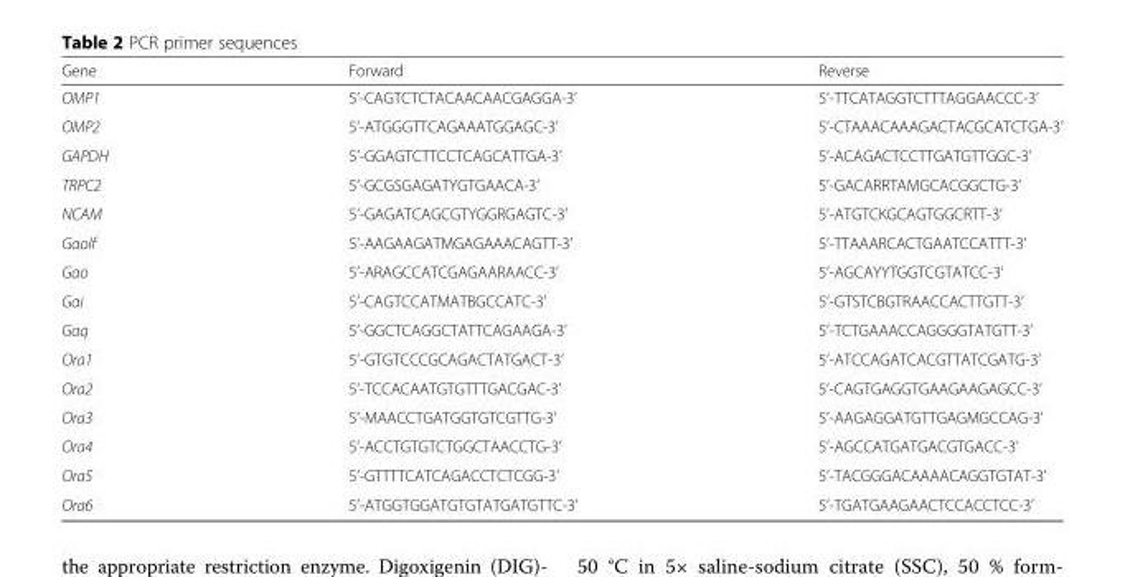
<table><thead><tr><td>Gene</td><td>Forward</td><td>Reverse</td></tr></thead><tbody><tr><td>OMP1</td><td>5’-CAGTCTCTACAACAACGAGGA-3’</td><td>5’-TTCATAGGTCTTTAGGAACCC-3’</td></tr><tr><td>OMP2</td><td>5’-ATGGGTTCAGAAATGGAGC-3’</td><td>5’-CTAAACAAAGACTACGCATCTGA-3’</td></tr><tr><td>GAPDH</td><td>5’-GGAGTCTTCCTCAGCATTGA-3’</td><td>5’-ACAGACTCCTTGATGTTGGC-3’</td></tr><tr><td>TRPC2</td><td>5’-GCGSGAGATYGTGAACA-3’</td><td>5’-GACARRTAMGCACGGCTG-3’</td></tr><tr><td>NCAM</td><td>5’-GAGATCAGCGTYGGRGAGTC-3’</td><td>5’-ATGTCKGCAGTGGCRTT-3’</td></tr><tr><td>Gαolf</td><td>5’-AAGAAGATMGAGAAACAGTT-3’</td><td>5’-TTAAARCACTGAATCCATTT-3’</td></tr><tr><td>Gαo</td><td>5’-ARAGCCATCGAGAARAACC-3’</td><td>5’-AGCAYYTGGTCGTATCC-3’</td></tr><tr><td>Gαi</td><td>5’-CAGTCCATMATBGCCATC-3’</td><td>5’-GTSTCBGTRAACCACTTGTT-3’</td></tr><tr><td>Gαq</td><td>5’-GGCTCAGGCTATTCAGAAGA-3’</td><td>5’-TCTGAAACCAGGGGTATGTT-3’</td></tr><tr><td>Ora1</td><td>5’-GTGTCCCGCAGACTATGACT-3’</td><td>5’-ATCCAGATCACGTTATCGATG-3’</td></tr><tr><td>Ora2</td><td>5’-TCCACAATGTGTTTGACGAC-3’</td><td>5’-CAGTGAGGTGAAGAAGAGCC-3’</td></tr><tr><td>Ora3</td><td>5’-MAACCTGATGGTGTCGTTG-3’</td><td>5’-AAGAGGATGTTGAGMGCCAG-3’</td></tr><tr><td>Ora4</td><td>5’-ACCTGTGTCTGGCTAACCTG-3’</td><td>5’-AGCCATGATGACGTGACC-3’</td></tr><tr><td>Ora5</td><td>5’-GTTTTCATCAGACCTCTCGG-3’</td><td>5’-TACGGGACAAAACAGGTGTAT-3’</td></tr><tr><td>Ora6</td><td>5’-ATGGTGGATGTGTATGATGTTC-3’</td><td>5’-TGATGAAGAACTCCACCTCC-3’</td></tr></tbody></table>